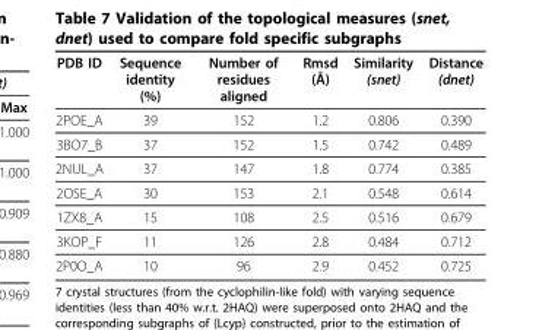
<table><thead><tr><td>PDB ID</td><td>Sequence identity (%)</td><td>Number of residues aligned</td><td>Rmsd (Å)</td><td>Similarity (snet)</td><td>Distance (dnet)</td></tr></thead><tbody><tr><td>2POE_A</td><td>39</td><td>152</td><td>1.2</td><td>0.806</td><td>0.390</td></tr><tr><td>3BO7_B</td><td>37</td><td>152</td><td>1.5</td><td>0.742</td><td>0.489</td></tr><tr><td>2NUL_A</td><td>37</td><td>147</td><td>1.8</td><td>0.774</td><td>0.385</td></tr><tr><td>2OSE_A</td><td>30</td><td>153</td><td>2.1</td><td>0.548</td><td>0.614</td></tr><tr><td>1ZX8_A</td><td>15</td><td>108</td><td>2.5</td><td>0.516</td><td>0.679</td></tr><tr><td>3KOP_F</td><td>11</td><td>126</td><td>2.8</td><td>0.484</td><td>0.712</td></tr><tr><td>2P0O_A</td><td>10</td><td>96</td><td>2.9</td><td>0.452</td><td>0.725</td></tr></tbody></table>